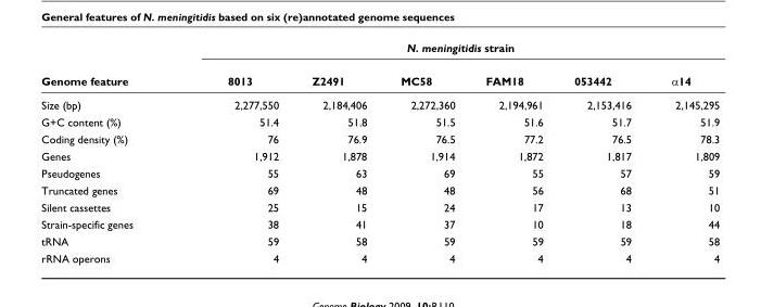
<table><thead><tr><td rowspan="2">Genome feature</td><td colspan="6">N. meningitidis strain</td></tr><tr><td>8013</td><td>Z2491</td><td>MC58</td><td>FAM18</td><td>053442</td><td>α14</td></tr></thead><tbody><tr><td>Size (bp)</td><td>2,277,550</td><td>2,184,406</td><td>2,272,360</td><td>2,194,961</td><td>2,153,416</td><td>2,145,295</td></tr><tr><td>G+C content (%)</td><td>51.4</td><td>51.8</td><td>51.5</td><td>51.6</td><td>51.7</td><td>51.9</td></tr><tr><td>Coding density (%)</td><td>76</td><td>76.9</td><td>76.5</td><td>77.2</td><td>76.5</td><td>78.3</td></tr><tr><td>Genes</td><td>1,912</td><td>1,878</td><td>1,914</td><td>1,872</td><td>1,817</td><td>1,809</td></tr><tr><td>Pseudogenes</td><td>55</td><td>63</td><td>69</td><td>55</td><td>57</td><td>59</td></tr><tr><td>Truncated genes</td><td>69</td><td>48</td><td>48</td><td>56</td><td>68</td><td>51</td></tr><tr><td>Silent cassettes</td><td>25</td><td>15</td><td>24</td><td>17</td><td>13</td><td>10</td></tr><tr><td>Strain-specific genes</td><td>38</td><td>41</td><td>37</td><td>10</td><td>18</td><td>44</td></tr><tr><td>tRNA</td><td>59</td><td>58</td><td>59</td><td>59</td><td>59</td><td>58</td></tr><tr><td>rRNA operons</td><td>4</td><td>4</td><td>4</td><td>4</td><td>4</td><td>4</td></tr></tbody></table>